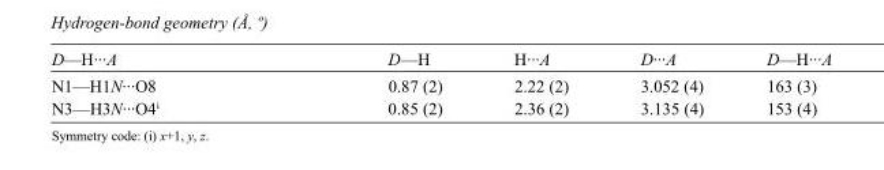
<table><tbody><tr><td>D—H···A</td><td>D—H</td><td>H···A</td><td>D···A</td><td>D—H···A</td></tr><tr><td>N1—H1N···O8</td><td>0.87 (2)</td><td>2.22 (2)</td><td>3.052 (4)</td><td>163 (3)</td></tr><tr><td>N3—H3N···O4<sup>i</sup></td><td>0.85 (2)</td><td>2.36 (2)</td><td>3.135 (4)</td><td>153 (4)</td></tr></tbody></table>